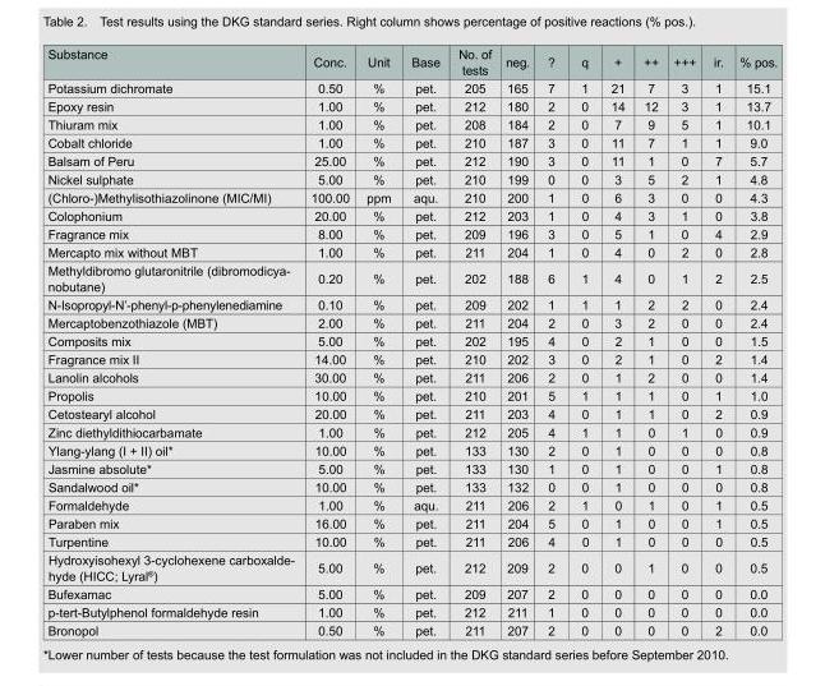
<table><thead><tr><td>Substance</td><td>Conc.</td><td>Unit</td><td>Base</td><td>No. of tests</td><td>neg.</td><td>?</td><td>q</td><td>+</td><td>++</td><td>+++</td><td>ir.</td><td>% pos.</td></tr></thead><tbody><tr><td>Potassium dichromate</td><td>0.50</td><td>%</td><td>pet.</td><td>205</td><td>165</td><td>7</td><td>1</td><td>21</td><td>7</td><td>3</td><td>1</td><td>15.1</td></tr><tr><td>Epoxy resin</td><td>1.00</td><td>%</td><td>pet.</td><td>212</td><td>180</td><td>2</td><td>0</td><td>14</td><td>12</td><td>3</td><td>1</td><td>13.7</td></tr><tr><td>Thiuram mix</td><td>1.00</td><td>%</td><td>pet.</td><td>208</td><td>184</td><td>2</td><td>0</td><td>7</td><td>9</td><td>5</td><td>1</td><td>10.1</td></tr><tr><td>Cobalt chloride</td><td>1.00</td><td>%</td><td>pet.</td><td>210</td><td>187</td><td>3</td><td>0</td><td>11</td><td>7</td><td>1</td><td>1</td><td>9.0</td></tr><tr><td>Balsam of Peru</td><td>25.00</td><td>%</td><td>pet.</td><td>212</td><td>190</td><td>3</td><td>0</td><td>11</td><td>1</td><td>0</td><td>7</td><td>5.7</td></tr><tr><td>Nickel sulphate</td><td>5.00</td><td>%</td><td>pet.</td><td>210</td><td>199</td><td>0</td><td>0</td><td>3</td><td>5</td><td>2</td><td>1</td><td>4.8</td></tr><tr><td>(Chloro-)Methylisothiazolinone (MIC/MI)</td><td>100.00</td><td>ppm</td><td>aqu.</td><td>210</td><td>200</td><td>1</td><td>0</td><td>6</td><td>3</td><td>0</td><td>0</td><td>4.3</td></tr><tr><td>Colophonium</td><td>20.00</td><td>%</td><td>pet.</td><td>212</td><td>203</td><td>1</td><td>0</td><td>4</td><td>3</td><td>1</td><td>0</td><td>3.8</td></tr><tr><td>Fragrance mix</td><td>8.00</td><td>%</td><td>pet.</td><td>209</td><td>196</td><td>3</td><td>0</td><td>5</td><td>1</td><td>0</td><td>4</td><td>2.9</td></tr><tr><td>Mercapto mix without MBT</td><td>1.00</td><td>%</td><td>pet.</td><td>211</td><td>204</td><td>1</td><td>0</td><td>4</td><td>0</td><td>2</td><td>0</td><td>2.8</td></tr><tr><td>Methyldibromo glutaronitrile (dibromodicya- nobutane)</td><td>0.20</td><td>%</td><td>pet.</td><td>202</td><td>188</td><td>6</td><td>1</td><td>4</td><td>0</td><td>1</td><td>2</td><td>2.5</td></tr><tr><td>N-Isopropyl-N’-phenyl-p-phenylenediamine</td><td>0.10</td><td>%</td><td>pet.</td><td>209</td><td>202</td><td>1</td><td>1</td><td>1</td><td>2</td><td>2</td><td>0</td><td>2.4</td></tr><tr><td>Mercaptobenzothiazole (MBT)</td><td>2.00</td><td>%</td><td>pet.</td><td>211</td><td>204</td><td>2</td><td>0</td><td>3</td><td>2</td><td>0</td><td>0</td><td>2.4</td></tr><tr><td>Composits mix</td><td>5.00</td><td>%</td><td>pet.</td><td>202</td><td>195</td><td>4</td><td>0</td><td>2</td><td>1</td><td>0</td><td>0</td><td>1.5</td></tr><tr><td>Fragrance mix II</td><td>14.00</td><td>%</td><td>pet.</td><td>210</td><td>202</td><td>3</td><td>0</td><td>2</td><td>1</td><td>0</td><td>2</td><td>1.4</td></tr><tr><td>Lanolin alcohols</td><td>30.00</td><td>%</td><td>pet.</td><td>211</td><td>206</td><td>2</td><td>0</td><td>1</td><td>2</td><td>0</td><td>0</td><td>1.4</td></tr><tr><td>Propolis</td><td>10.00</td><td>%</td><td>pet.</td><td>210</td><td>201</td><td>5</td><td>1</td><td>1</td><td>1</td><td>0</td><td>1</td><td>1.0</td></tr><tr><td>Cetostearyl alcohol</td><td>20.00</td><td>%</td><td>pet.</td><td>211</td><td>203</td><td>4</td><td>0</td><td>1</td><td>1</td><td>0</td><td>2</td><td>0.9</td></tr><tr><td>Zinc diethyldithiocarbamate</td><td>1.00</td><td>%</td><td>pet.</td><td>212</td><td>205</td><td>4</td><td>1</td><td>1</td><td>0</td><td>1</td><td>0</td><td>0.9</td></tr><tr><td>Ylang-ylang (I + II) oil*</td><td>10.00</td><td>%</td><td>pet.</td><td>133</td><td>130</td><td>2</td><td>0</td><td>1</td><td>0</td><td>0</td><td>0</td><td>0.8</td></tr><tr><td>Jasmine absolute*</td><td>5.00</td><td>%</td><td>pet.</td><td>133</td><td>130</td><td>1</td><td>0</td><td>1</td><td>0</td><td>0</td><td>1</td><td>0.8</td></tr><tr><td>Sandalwood oil*</td><td>10.00</td><td>%</td><td>pet.</td><td>133</td><td>132</td><td>0</td><td>0</td><td>1</td><td>0</td><td>0</td><td>0</td><td>0.8</td></tr><tr><td>Formaldehyde</td><td>1.00</td><td>%</td><td>aqu.</td><td>211</td><td>206</td><td>2</td><td>1</td><td>0</td><td>1</td><td>0</td><td>1</td><td>0.5</td></tr><tr><td>Paraben mix</td><td>16.00</td><td>%</td><td>pet.</td><td>211</td><td>204</td><td>5</td><td>0</td><td>1</td><td>0</td><td>0</td><td>1</td><td>0.5</td></tr><tr><td>Turpentine</td><td>10.00</td><td>%</td><td>pet.</td><td>211</td><td>206</td><td>4</td><td>0</td><td>1</td><td>0</td><td>0</td><td>0</td><td>0.5</td></tr><tr><td>Hydroxyisohexyl 3-cyclohexene carboxalde- hyde (HICC; Lyral®)</td><td>5.00</td><td>%</td><td>pet.</td><td>212</td><td>209</td><td>2</td><td>0</td><td>0</td><td>1</td><td>0</td><td>0</td><td>0.5</td></tr><tr><td>Bufexamac</td><td>5.00</td><td>%</td><td>pet.</td><td>209</td><td>207</td><td>2</td><td>0</td><td>0</td><td>0</td><td>0</td><td>0</td><td>0.0</td></tr><tr><td>p-tert-Butylphenol formaldehyde resin</td><td>1.00</td><td>%</td><td>pet.</td><td>212</td><td>211</td><td>1</td><td>0</td><td>0</td><td>0</td><td>0</td><td>0</td><td>0.0</td></tr><tr><td>Bronopol</td><td>0.50</td><td>%</td><td>pet.</td><td>211</td><td>207</td><td>2</td><td>0</td><td>0</td><td>0</td><td>0</td><td>2</td><td>0.0</td></tr></tbody></table>